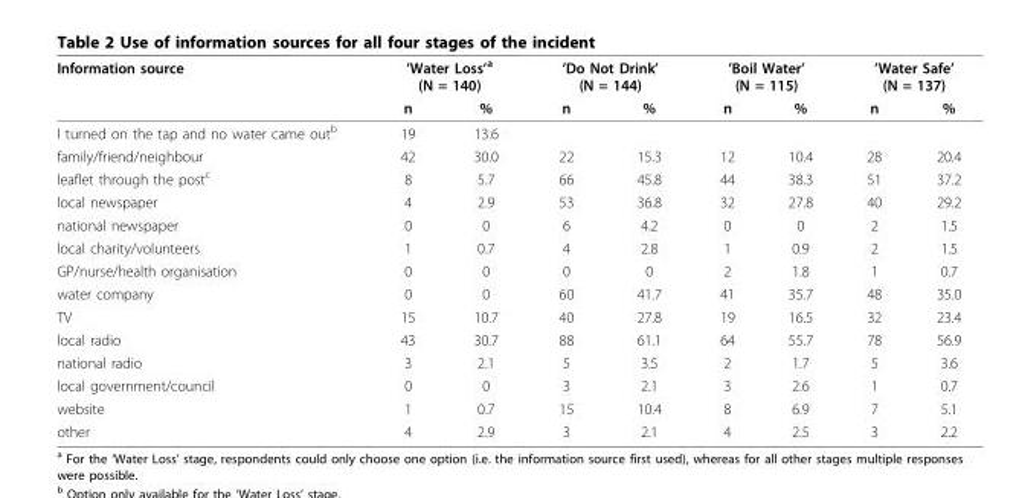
<table><thead><tr><td rowspan="2">Information source</td><td colspan="2">’Water Loss’<sup>a</sup> (N = 140)</td><td colspan="2">’Do Not Drink’ (N = 144)</td><td colspan="2">’Boil Water’ (N = 115)</td><td colspan="2">’Water Safe’ (N = 137)</td></tr><tr><td>n</td><td>%</td><td>n</td><td>%</td><td>n</td><td>%</td><td>n</td><td>%</td></tr></thead><tbody><tr><td>I turned on the tap and no water came out<sup>b</sup></td><td>19</td><td>13.6</td><td></td><td></td><td></td><td></td><td></td><td></td></tr><tr><td>family/friend/neighbour</td><td>42</td><td>30.0</td><td>22</td><td>15.3</td><td>12</td><td>10.4</td><td>28</td><td>20.4</td></tr><tr><td>leaflet through the post<sup>c</sup></td><td>8</td><td>5.7</td><td>66</td><td>45.8</td><td>44</td><td>38.3</td><td>51</td><td>37.2</td></tr><tr><td>local newspaper</td><td>4</td><td>2.9</td><td>53</td><td>36.8</td><td>32</td><td>27.8</td><td>40</td><td>29.2</td></tr><tr><td>national newspaper</td><td>0</td><td>0</td><td>6</td><td>4.2</td><td>0</td><td>0</td><td>2</td><td>1.5</td></tr><tr><td>local charity/volunteers</td><td>1</td><td>0.7</td><td>4</td><td>2.8</td><td>1</td><td>0.9</td><td>2</td><td>1.5</td></tr><tr><td>GP/nurse/health organisation</td><td>0</td><td>0</td><td>0</td><td>0</td><td>2</td><td>1.8</td><td>1</td><td>0.7</td></tr><tr><td>water company</td><td>0</td><td>0</td><td>60</td><td>41.7</td><td>41</td><td>35.7</td><td>48</td><td>35.0</td></tr><tr><td>TV</td><td>15</td><td>10.7</td><td>40</td><td>27.8</td><td>19</td><td>16.5</td><td>32</td><td>23.4</td></tr><tr><td>local radio</td><td>43</td><td>30.7</td><td>88</td><td>61.1</td><td>64</td><td>55.7</td><td>78</td><td>56.9</td></tr><tr><td>national radio</td><td>3</td><td>2.1</td><td>5</td><td>3.5</td><td>2</td><td>1.7</td><td>5</td><td>3.6</td></tr><tr><td>local government/council</td><td>0</td><td>0</td><td>3</td><td>2.1</td><td>3</td><td>2.6</td><td>1</td><td>0.7</td></tr><tr><td>website</td><td>1</td><td>0.7</td><td>15</td><td>10.4</td><td>8</td><td>6.9</td><td>7</td><td>5.1</td></tr><tr><td>other</td><td>4</td><td>2.9</td><td>3</td><td>2.1</td><td>4</td><td>2.5</td><td>3</td><td>2.2</td></tr></tbody></table>